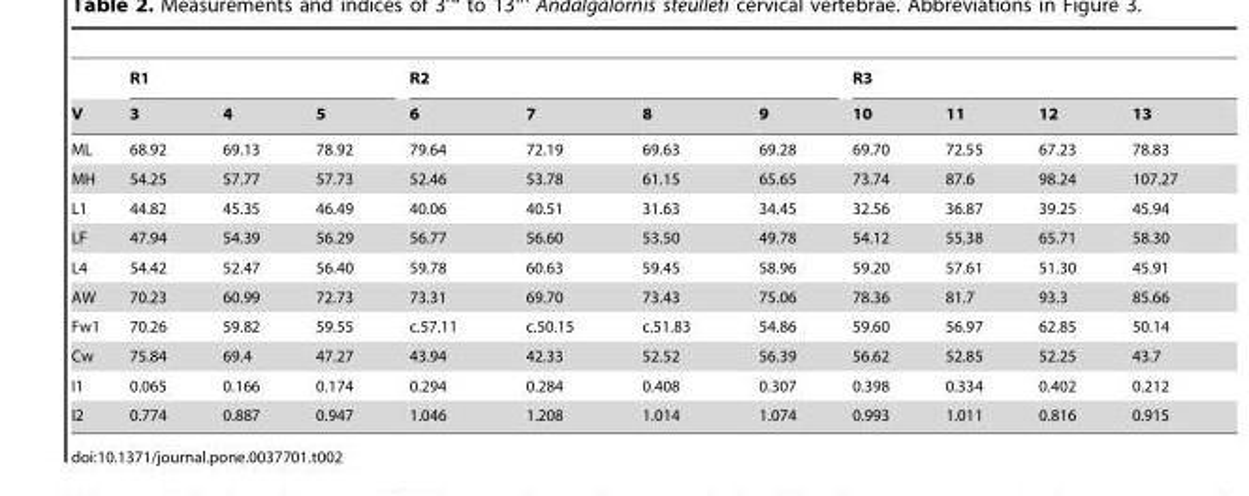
<table><thead><tr><td rowspan="2">V</td><td colspan="3">R1</td><td colspan="4">R2</td><td colspan="4">R3</td></tr><tr><td>3</td><td>4</td><td>5</td><td>6</td><td>7</td><td>8</td><td>9</td><td>10</td><td>11</td><td>12</td><td>13</td></tr></thead><tbody><tr><td>ML</td><td>68.92</td><td>69.13</td><td>78.92</td><td>79.64</td><td>72.19</td><td>69.63</td><td>69.28</td><td>69.70</td><td>72.55</td><td>67.23</td><td>78.83</td></tr><tr><td>MH</td><td>54.25</td><td>57.77</td><td>57.73</td><td>52.46</td><td>53.78</td><td>61.15</td><td>65.65</td><td>73.74</td><td>87.6</td><td>98.24</td><td>107.27</td></tr><tr><td>L1</td><td>44.82</td><td>45.35</td><td>46.49</td><td>40.06</td><td>40.51</td><td>31.63</td><td>34.45</td><td>32.56</td><td>36.87</td><td>39.25</td><td>45.94</td></tr><tr><td>LF</td><td>47.94</td><td>54.39</td><td>56.29</td><td>56.77</td><td>56.60</td><td>53.50</td><td>49.78</td><td>54.12</td><td>55.38</td><td>65.71</td><td>58.30</td></tr><tr><td>L4</td><td>54.42</td><td>52.47</td><td>56.40</td><td>59.78</td><td>60.63</td><td>59.45</td><td>58.96</td><td>59.20</td><td>57.61</td><td>51.30</td><td>45.91</td></tr><tr><td>AW</td><td>70.23</td><td>60.99</td><td>72.73</td><td>73.31</td><td>69.70</td><td>73.43</td><td>75.06</td><td>78.36</td><td>81.7</td><td>93.3</td><td>85.66</td></tr><tr><td>Fw1</td><td>70.26</td><td>59.82</td><td>59.55</td><td>c.57.11</td><td>c.50.15</td><td>c.51.83</td><td>54.86</td><td>59.60</td><td>56.97</td><td>62.85</td><td>50.14</td></tr><tr><td>Cw</td><td>75.84</td><td>69.4</td><td>47.27</td><td>43.94</td><td>42.33</td><td>52.52</td><td>56.39</td><td>56.62</td><td>52.85</td><td>52.25</td><td>43.7</td></tr><tr><td>I1</td><td>0.065</td><td>0.166</td><td>0.174</td><td>0.294</td><td>0.284</td><td>0.408</td><td>0.307</td><td>0.398</td><td>0.334</td><td>0.402</td><td>0.212</td></tr><tr><td>I2</td><td>0.774</td><td>0.887</td><td>0.947</td><td>1.046</td><td>1.208</td><td>1.014</td><td>1.074</td><td>0.993</td><td>1.011</td><td>0.816</td><td>0.915</td></tr></tbody></table>